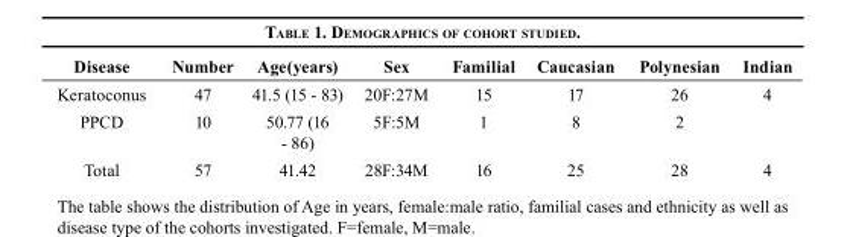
<table><thead><tr><td>Disease</td><td>Number</td><td>Age(years)</td><td>Sex</td><td>Familial</td><td>Caucasian</td><td>Polynesian</td><td>Indian</td></tr></thead><tbody><tr><td>Keratoconus</td><td>47</td><td>41.5 (15 - 83)</td><td>20F:27M</td><td>15</td><td>17</td><td>26</td><td>4</td></tr><tr><td>PPCD</td><td>10</td><td>50.77 (16 - 86)</td><td>5F:5M</td><td>1</td><td>8</td><td>2</td><td></td></tr><tr><td>Total</td><td>57</td><td>41.42</td><td>28F:34M</td><td>16</td><td>25</td><td>28</td><td>4</td></tr></tbody></table>